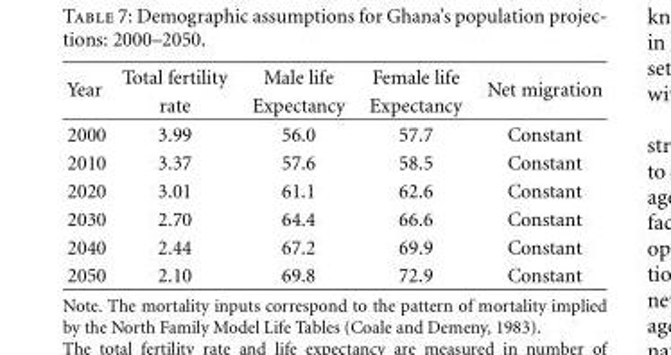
<table><thead><tr><td rowspan="2">Year</td><td rowspan="2">Total fertility rate</td><td rowspan="2">Male life Expectancy</td><td rowspan="2">Female life Expectancy</td><td rowspan="2">Net migration</td></tr><tr></tr></thead><tbody><tr><td>2000</td><td>3.99</td><td>56.0</td><td>57.7</td><td>Constant</td></tr><tr><td>2010</td><td>3.37</td><td>57.6</td><td>58.5</td><td>Constant</td></tr><tr><td>2020</td><td>3.01</td><td>61.1</td><td>62.6</td><td>Constant</td></tr><tr><td>2030</td><td>2.70</td><td>64.4</td><td>66.6</td><td>Constant</td></tr><tr><td>2040</td><td>2.44</td><td>67.2</td><td>69.9</td><td>Constant</td></tr><tr><td>2050</td><td>2.10</td><td>69.8</td><td>72.9</td><td>Constant</td></tr></tbody></table>